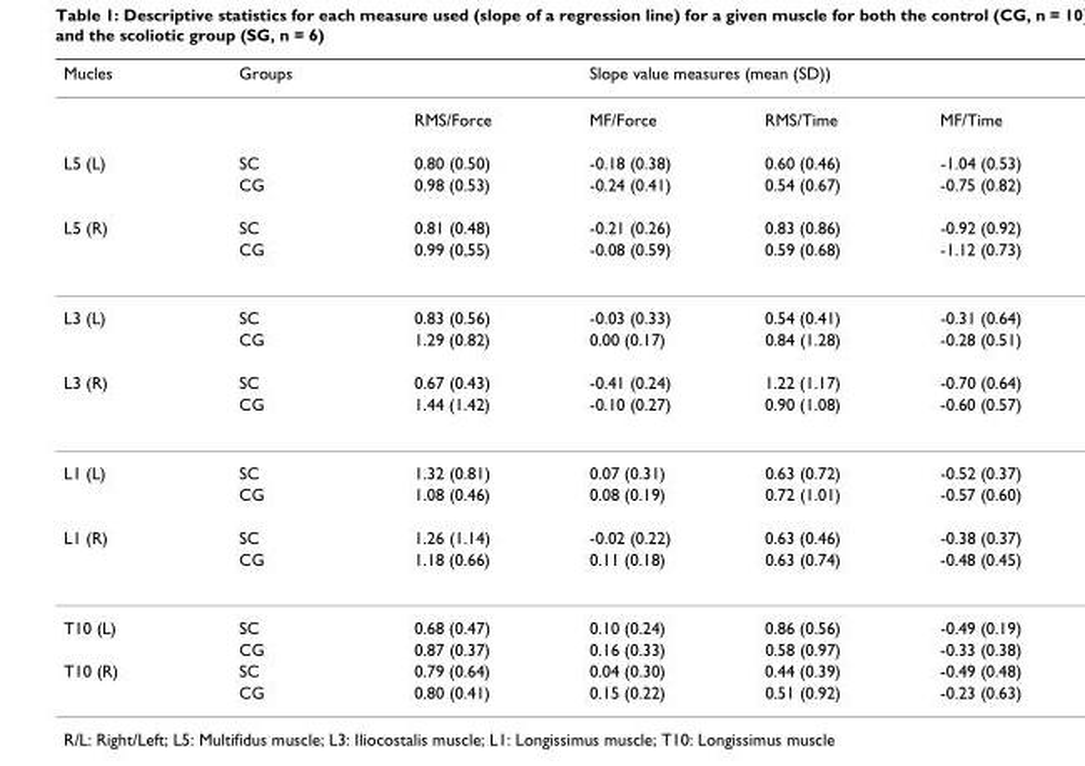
<table><thead><tr><td rowspan="2">Mucles</td><td rowspan="2">Groups</td><td rowspan="2">RMS/Force</td><td colspan="3">Slope value measures (mean (SD))</td></tr><tr><td>MF/Force</td><td>RMS/Time</td><td>MF/Time</td></tr></thead><tbody><tr><td rowspan="2">L5 (L)</td><td>SC</td><td>0.80 (0.50)</td><td>-0.18 (0.38)</td><td>0.60 (0.46)</td><td>-1.04 (0.53)</td></tr><tr><td>CG</td><td>0.98 (0.53)</td><td>-0.24 (0.41)</td><td>0.54 (0.67)</td><td>-0.75 (0.82)</td></tr><tr><td rowspan="2">L5 (R)</td><td>SC</td><td>0.81 (0.48)</td><td>-0.21 (0.26)</td><td>0.83 (0.86)</td><td>-0.92 (0.92)</td></tr><tr><td>CG</td><td>0.99 (0,55)</td><td>-0.08 (0.59)</td><td>0.59 (0.68)</td><td>-1.12 (0.73)</td></tr><tr><td rowspan="2">L3 (L)</td><td>SC</td><td>0.83 (0.56)</td><td>-0.03 (0.33)</td><td>0.54 (0.41)</td><td>-0.31 (0.64)</td></tr><tr><td>CG</td><td>1.29 (0.82)</td><td>0.00 (0.17)</td><td>0.84 (1.28)</td><td>-0.28 (0.51)</td></tr><tr><td rowspan="2">L3 (R)</td><td>SC</td><td>0.67 (0.43)</td><td>-0.41 (0.24)</td><td>1.22 (1.17)</td><td>-0.70 (0.64)</td></tr><tr><td>CG</td><td>1.44 (1.42)</td><td>-0.10 (0.27)</td><td>0.90 (1.08)</td><td>-0.60 (0.57)</td></tr><tr><td rowspan="2">L1 (L)</td><td>SC</td><td>1.32 (0.81)</td><td>0.07 (0.31)</td><td>0.63 (0.72)</td><td>-0.52 (0.37)</td></tr><tr><td>CG</td><td>1.08 (0.46)</td><td>0.08 (0.19)</td><td>0.72 (1.01)</td><td>-0.57 (0.60)</td></tr><tr><td rowspan="2">L1 (R)</td><td>SC</td><td>1.26 (1.14)</td><td>-0.02 (0.22)</td><td>0.63 (0.46)</td><td>-0.38 (0.37)</td></tr><tr><td>CG</td><td>1.18 (0.66)</td><td>0.11 (0.18)</td><td>0.63 (0.74)</td><td>-0.48 (0.45)</td></tr><tr><td rowspan="2">T10 (L)</td><td>SC</td><td>0.68 (0.47)</td><td>0.10 (0.24)</td><td>0.86 (0.56)</td><td>-0.49 (0.19)</td></tr><tr><td>CG</td><td>0.87 (0.37)</td><td>0.16 (0.33)</td><td>0.58 (0.97)</td><td>-0.33 (0.38)</td></tr><tr><td rowspan="2">T10 (R)</td><td>SC</td><td>0.79 (0.64)</td><td>0.04 (0.30)</td><td>0.44 (0.39)</td><td>-0.49 (0.48)</td></tr><tr><td>CG</td><td>0.80 (0.41)</td><td>0.15 (0.22)</td><td>0.51 (0.92)</td><td>-0.23 (0.63)</td></tr></tbody></table>